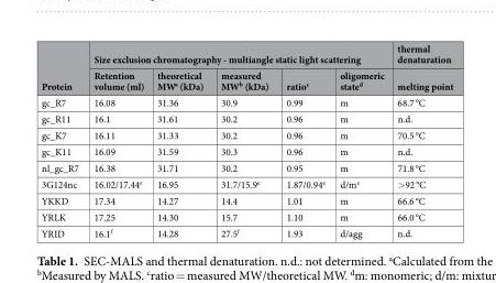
<table><thead><tr><td rowspan="2">Protein</td><td colspan="5">Size exclusion chromatography - multiangle static light scattering</td><td rowspan="2">thermal denaturation melting point</td></tr><tr><td>Retention volume (ml)</td><td>theoretical MW<sup>a</sup> (kDa)</td><td>measured MW<sup>b</sup> (kDa)</td><td>ratio<sup>c</sup></td><td>oligomeric state<sup>d</sup></td></tr></thead><tbody><tr><td>gc_R7</td><td>16.08</td><td>31.36</td><td>30.9</td><td>0.99</td><td>m</td><td>68.7 °C</td></tr><tr><td>gc_R11</td><td>16.1</td><td>31.61</td><td>30.2</td><td>0.96</td><td>m</td><td>n.d.</td></tr><tr><td>gc_K7</td><td>16.11</td><td>31.33</td><td>30.2</td><td>0.96</td><td>m</td><td>70.5 °C</td></tr><tr><td>gc_K11</td><td>16.09</td><td>31.59</td><td>30.3</td><td>0.96</td><td>m</td><td>n.d.</td></tr><tr><td>nl_gc_R7</td><td>16.38</td><td>31.71</td><td>30.2</td><td>0.95</td><td>m</td><td>71.8 °C</td></tr><tr><td>3G124nc</td><td>16.02/17.44<sup>e</sup></td><td>16.95</td><td>31.7/15.9<sup>e</sup></td><td>1.87/0.94<sup>e</sup></td><td>d/m<sup>e</sup></td><td>&gt;92 °C</td></tr><tr><td>YKKD</td><td>17.34</td><td>14.27</td><td>14.4</td><td>1.01</td><td>m</td><td>66.6 °C</td></tr><tr><td>YRLK</td><td>17.25</td><td>14.30</td><td>15.7</td><td>1.10</td><td>m</td><td>66.0 °C</td></tr><tr><td>YRID</td><td>16.1<sup>f</sup></td><td>14.28</td><td>27.5<sup>f</sup></td><td>1.93</td><td>d/agg</td><td>n.d.</td></tr></tbody></table>